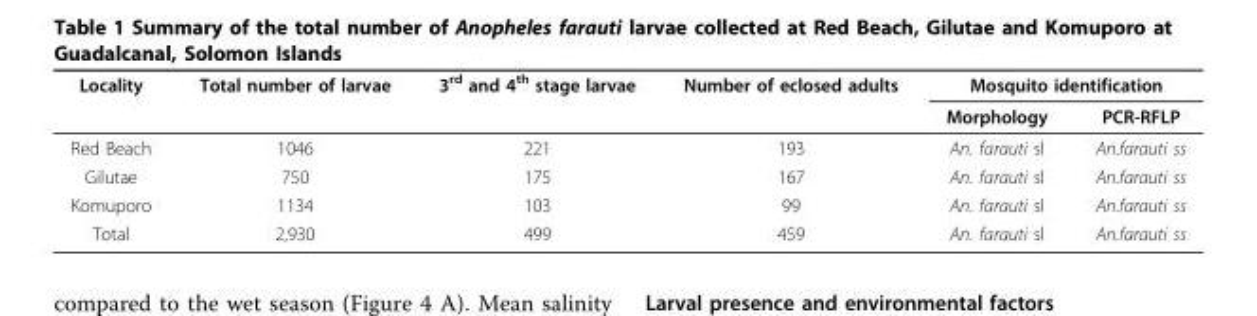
<table><thead><tr><td rowspan="2">Locality</td><td rowspan="2">Total number of larvae</td><td rowspan="2">3<sup>rd</sup> and 4<sup>th</sup> stage larvae</td><td rowspan="2">Number of eclosed adults</td><td colspan="2">Mosquito identification</td></tr><tr><td>Morphology</td><td>PCR-RFLP</td></tr></thead><tbody><tr><td>Red Beach</td><td>1046</td><td>221</td><td>193</td><td>An. farauti sl</td><td>An.farauti ss</td></tr><tr><td>Gilutae</td><td>750</td><td>175</td><td>167</td><td>An. farauti sl</td><td>An.farauti ss</td></tr><tr><td>Komuporo</td><td>1134</td><td>103</td><td>99</td><td>An. farauti sl</td><td>An.farauti ss</td></tr><tr><td>Total</td><td>2,930</td><td>499</td><td>459</td><td>An. farauti sl</td><td>An.farauti ss</td></tr></tbody></table>